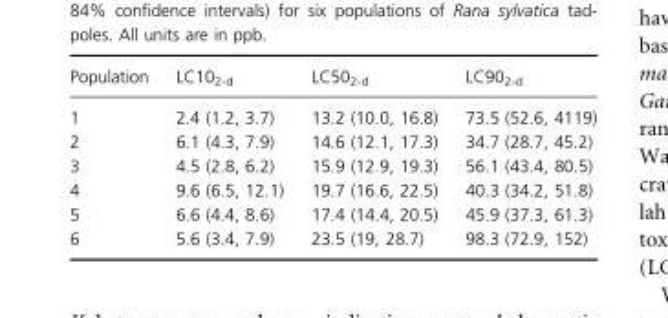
<table><thead><tr><td>Population</td><td>LC10<sub>2-d</sub></td><td>LC50<sub>2-d</sub></td><td>LC90<sub>2-d</sub></td></tr></thead><tbody><tr><td>1</td><td>2.4 (1.2, 3.7)</td><td>13.2 (10.0, 16.8)</td><td>73.5 (52.6, 4119)</td></tr><tr><td>2</td><td>6.1 (4.3, 7.9)</td><td>14.6 (12.1, 17.3)</td><td>34.7 (28.7, 45.2)</td></tr><tr><td>3</td><td>4.5 (2.8, 6.2)</td><td>15.9 (12.9, 19.3)</td><td>56.1 (43.4, 80.5)</td></tr><tr><td>4</td><td>9.6 (6.5, 12.1)</td><td>19.7 (16.6, 22.5)</td><td>40.3 (34.2, 51.8)</td></tr><tr><td>5</td><td>6.6 (4.4, 8.6)</td><td>17.4 (14.4, 20.5)</td><td>45.9 (37.3, 61.3)</td></tr><tr><td>6</td><td>5.6 (3.4, 7.9)</td><td>23.5 (19, 28.7)</td><td>98.3 (72.9, 152)</td></tr></tbody></table>